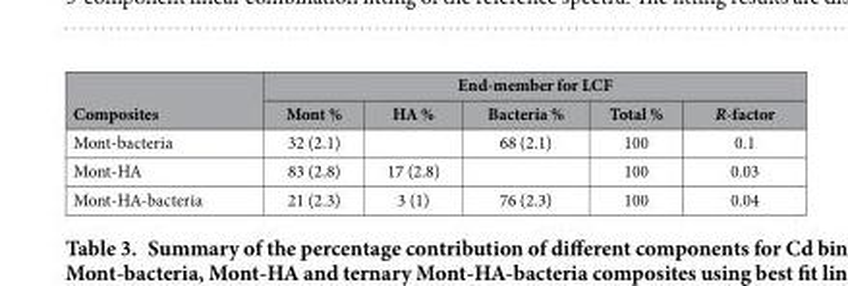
<table><thead><tr><td rowspan="2">Composites</td><td colspan="5">End-member for LCF</td></tr><tr><td>Mont %</td><td>HA %</td><td>Bacteria %</td><td>Total %</td><td>R-factor</td></tr></thead><tbody><tr><td>Mont-bacteria</td><td>32 (2.1)</td><td></td><td>68 (2.1)</td><td>100</td><td>0.1</td></tr><tr><td>Mont-HA</td><td>83 (2.8)</td><td>17 (2.8)</td><td></td><td>100</td><td>0.03</td></tr><tr><td>Mont-HA-bacteria</td><td>21 (2.3)</td><td>3 (1)</td><td>76 (2.3)</td><td>100</td><td>0.04</td></tr></tbody></table>